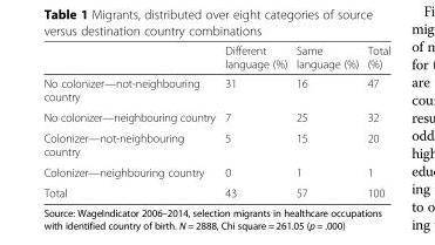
<table><thead><tr><td></td><td>Different language (%)</td><td>Same language (%)</td><td>Total (%)</td></tr></thead><tbody><tr><td>No colonizer—not-neighbouring country</td><td>31</td><td>16</td><td>47</td></tr><tr><td>No colonizer—neighbouring country</td><td>7</td><td>25</td><td>32</td></tr><tr><td>Colonizer—not-neighbouring country</td><td>5</td><td>15</td><td>20</td></tr><tr><td>Colonizer—neighbouring country</td><td>0</td><td>1</td><td>1</td></tr><tr><td>Total</td><td>43</td><td>57</td><td>100</td></tr></tbody></table>